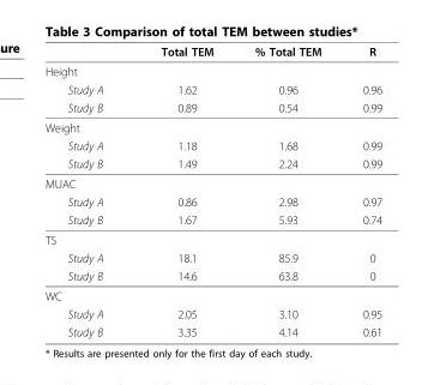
<table><thead><tr><td></td><td>Total TEM</td><td>% Total TEM</td><td>R</td></tr></thead><tbody><tr><td colspan="4">Height</td></tr><tr><td>Study A</td><td>1.62</td><td>0.96</td><td>0.96</td></tr><tr><td>Study B</td><td>0.89</td><td>0.54</td><td>0.99</td></tr><tr><td colspan="4">Weight</td></tr><tr><td>Study A</td><td>1.18</td><td>1.68</td><td>0.99</td></tr><tr><td>Study B</td><td>1.49</td><td>2.24</td><td>0.99</td></tr><tr><td colspan="4">MUAC</td></tr><tr><td>Study A</td><td>0.86</td><td>2.98</td><td>0.97</td></tr><tr><td>Study B</td><td>1.67</td><td>5.93</td><td>0.74</td></tr><tr><td colspan="4">TS</td></tr><tr><td>Study A</td><td>18.1</td><td>85.9</td><td>0</td></tr><tr><td>Study B</td><td>14.6</td><td>63.8</td><td>0</td></tr><tr><td colspan="4">WC</td></tr><tr><td>Study A</td><td>2.05</td><td>3.10</td><td>0.95</td></tr><tr><td>Study B</td><td>3.35</td><td>4.14</td><td>0.61</td></tr></tbody></table>